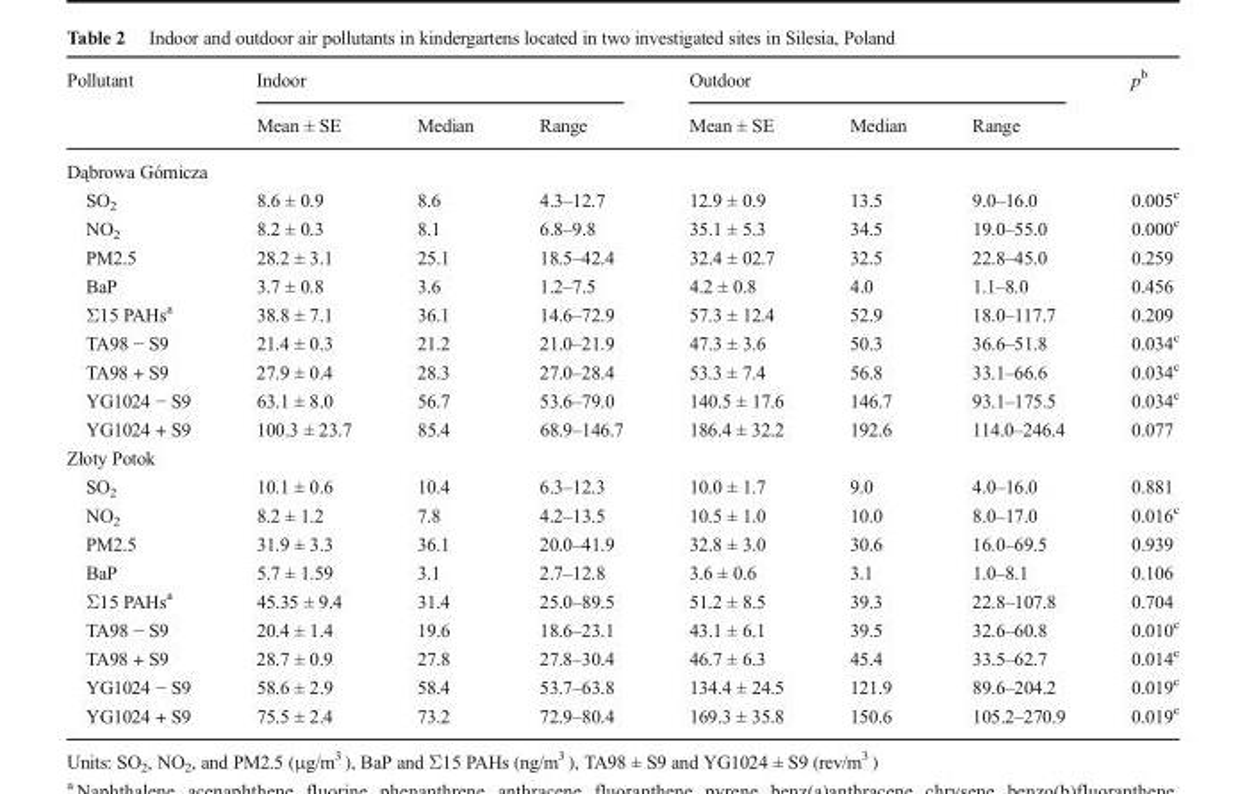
<table><thead><tr><td rowspan="2">Pollutant</td><td colspan="3">Indoor</td><td colspan="3">Outdoor</td><td rowspan="2">p<sup>b</sup></td></tr><tr><td>Mean ± SE</td><td>Median</td><td>Range</td><td>Mean ± SE</td><td>Median</td><td>Range</td></tr></thead><tbody><tr><td colspan="8">Dąbrowa Górnicza</td></tr><tr><td>SO<sub>2</sub></td><td>8.6 ± 0.9</td><td>8.6</td><td>4.3–12.7</td><td>12.9 ± 0.9</td><td>13.5</td><td>9.0–16.0</td><td>0.005<sup>c</sup></td></tr><tr><td>NO<sub>2</sub></td><td>8.2 ± 0.3</td><td>8.1</td><td>6.8–9.8</td><td>35.1 ± 5.3</td><td>34.5</td><td>19.0–55.0</td><td>0.000<sup>c</sup></td></tr><tr><td>PM2.5</td><td>28.2 ± 3.1</td><td>25.1</td><td>18.5–42.4</td><td>32.4 ± 02.7</td><td>32.5</td><td>22.8–45.0</td><td>0.259</td></tr><tr><td>BaP</td><td>3.7 ± 0.8</td><td>3.6</td><td>1.2–7.5</td><td>4.2 ± 0.8</td><td>4.0</td><td>1.1–8.0</td><td>0.456</td></tr><tr><td>Σ15 PAHs<sup>a</sup></td><td>38.8 ± 7.1</td><td>36.1</td><td>14.6–72.9</td><td>57.3 ± 12.4</td><td>52.9</td><td>18.0–117.7</td><td>0.209</td></tr><tr><td>TA98 − S9</td><td>21.4 ± 0.3</td><td>21.2</td><td>21.0–21.9</td><td>47.3 ± 3.6</td><td>50.3</td><td>36.6–51.8</td><td>0.034<sup>c</sup></td></tr><tr><td>TA98 + S9</td><td>27.9 ± 0.4</td><td>28.3</td><td>27.0–28.4</td><td>53.3 ± 7.4</td><td>56.8</td><td>33.1–66.6</td><td>0.034<sup>c</sup></td></tr><tr><td>YG1024 − S9</td><td>63.1 ± 8.0</td><td>56.7</td><td>53.6–79.0</td><td>140.5 ± 17.6</td><td>146.7</td><td>93.1–175.5</td><td>0.034<sup>c</sup></td></tr><tr><td>YG1024 + S9</td><td>100.3 ± 23.7</td><td>85.4</td><td>68.9–146.7</td><td>186.4 ± 32.2</td><td>192.6</td><td>114.0–246.4</td><td>0.077</td></tr><tr><td colspan="8">Złoty Potok</td></tr><tr><td>SO<sub>2</sub></td><td>10.1 ± 0.6</td><td>10.4</td><td>6.3–12.3</td><td>10.0 ± 1.7</td><td>9.0</td><td>4.0–16.0</td><td>0.881</td></tr><tr><td>NO<sub>2</sub></td><td>8.2 ± 1.2</td><td>7.8</td><td>4.2–13.5</td><td>10.5 ± 1.0</td><td>10.0</td><td>8.0–17.0</td><td>0.016<sup>c</sup></td></tr><tr><td>PM2.5</td><td>31.9 ± 3.3</td><td>36.1</td><td>20.0–41.9</td><td>32.8 ± 3.0</td><td>30.6</td><td>16.0–69.5</td><td>0.939</td></tr><tr><td>BaP</td><td>5.7 ± 1.59</td><td>3.1</td><td>2.7–12.8</td><td>3.6 ± 0.6</td><td>3.1</td><td>1.0–8.1</td><td>0.106</td></tr><tr><td>Σ15 PAHs<sup>a</sup></td><td>45.35 ± 9.4</td><td>31.4</td><td>25.0–89.5</td><td>51.2 ± 8.5</td><td>39.3</td><td>22.8–107.8</td><td>0.704</td></tr><tr><td>TA98 − S9</td><td>20.4 ± 1.4</td><td>19.6</td><td>18.6–23.1</td><td>43.1 ± 6.1</td><td>39.5</td><td>32.6–60.8</td><td>0.010<sup>c</sup></td></tr><tr><td>TA98 + S9</td><td>28.7 ± 0.9</td><td>27.8</td><td>27.8–30.4</td><td>46.7 ± 6.3</td><td>45.4</td><td>33.5–62.7</td><td>0.014<sup>c</sup></td></tr><tr><td>YG1024 − S9</td><td>58.6 ± 2.9</td><td>58.4</td><td>53.7–63.8</td><td>134.4 ± 24.5</td><td>121.9</td><td>89.6–204.2</td><td>0.019<sup>c</sup></td></tr><tr><td>YG1024 + S9</td><td>75.5 ± 2.4</td><td>73.2</td><td>72.9–80.4</td><td>169.3 ± 35.8</td><td>150.6</td><td>105.2–270.9</td><td>0.019<sup>c</sup></td></tr></tbody></table>